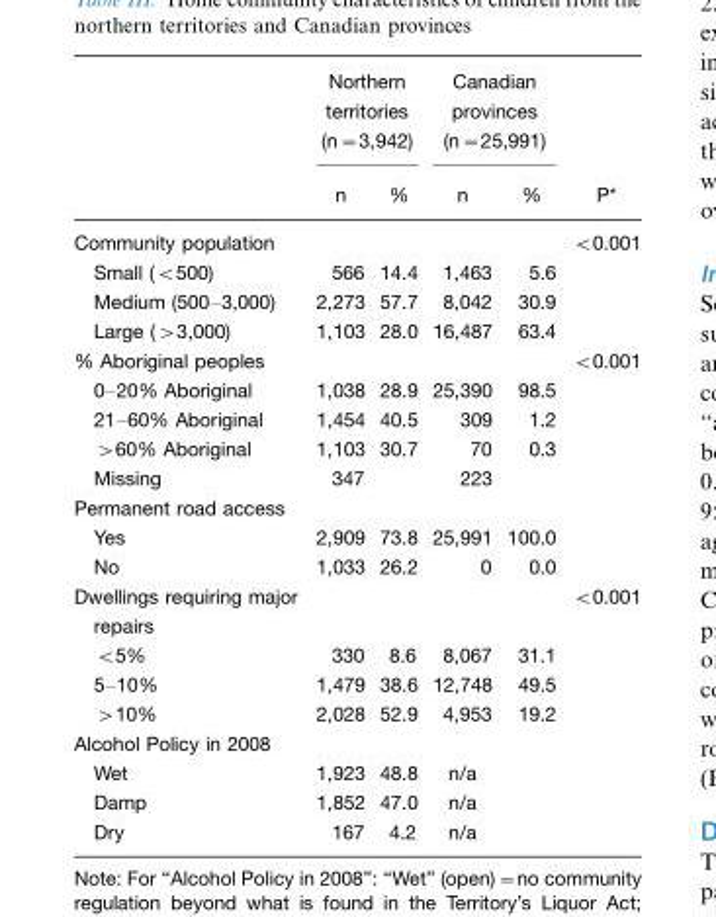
<table><thead><tr><td rowspan="2"></td><td colspan="2">Northern territories (n=3,942)</td><td colspan="2">Canadian provinces (n=25,991)</td><td rowspan="2">P*</td></tr><tr><td>n</td><td>%</td><td>n</td><td>%</td></tr></thead><tbody><tr><td>Community population</td><td></td><td></td><td></td><td></td><td>&lt;0.001</td></tr><tr><td>Small (&lt;500)</td><td>566</td><td>14.4</td><td>1,463</td><td>5.6</td><td></td></tr><tr><td>Medium (500–3,000)</td><td>2,273</td><td>57.7</td><td>8,042</td><td>30.9</td><td></td></tr><tr><td>Large (&gt;3,000)</td><td>1,103</td><td>28.0</td><td>16,487</td><td>63.4</td><td></td></tr><tr><td>% Aboriginal peoples</td><td></td><td></td><td></td><td></td><td>&lt;0.001</td></tr><tr><td>0–20% Aboriginal</td><td>1,038</td><td>28.9</td><td>25,390</td><td>98.5</td><td></td></tr><tr><td>21–60% Aboriginal</td><td>1,454</td><td>40.5</td><td>309</td><td>1.2</td><td></td></tr><tr><td>&gt;60% Aboriginal</td><td>1,103</td><td>30.7</td><td>70</td><td>0.3</td><td></td></tr><tr><td>Missing</td><td>347</td><td></td><td>223</td><td></td><td></td></tr><tr><td colspan="6">Permanent road access</td></tr><tr><td>Yes</td><td>2,909</td><td>73.8</td><td>25,991</td><td>100.0</td><td></td></tr><tr><td>No</td><td>1,033</td><td>26.2</td><td>0</td><td>0.0</td><td></td></tr><tr><td>Dwellings requiring major repairs</td><td></td><td></td><td></td><td></td><td>&lt;0.001</td></tr><tr><td>&lt;5%</td><td>330</td><td>8.6</td><td>8,067</td><td>31.1</td><td></td></tr><tr><td>5–10%</td><td>1,479</td><td>38.6</td><td>12,748</td><td>49.5</td><td></td></tr><tr><td>&gt;10%</td><td>2,028</td><td>52.9</td><td>4,953</td><td>19.2</td><td></td></tr><tr><td colspan="6">Alcohol Policy in 2008</td></tr><tr><td>Wet</td><td>1,923</td><td>48.8</td><td>n/a</td><td></td><td></td></tr><tr><td>Damp</td><td>1,852</td><td>47.0</td><td>n/a</td><td></td><td></td></tr><tr><td>Dry</td><td>167</td><td>4.2</td><td>n/a</td><td></td><td></td></tr></tbody></table>